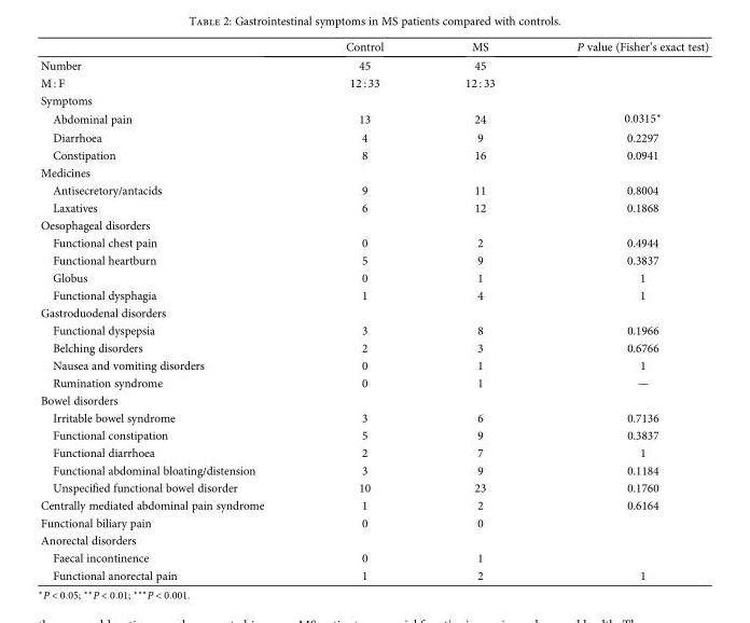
<table><thead><tr><td></td><td>Control</td><td>MS</td><td>P value (Fisher’s exact test)</td></tr></thead><tbody><tr><td>Number</td><td>45</td><td>45</td><td></td></tr><tr><td>M : F</td><td>12 : 33</td><td>12 : 33</td><td></td></tr><tr><td colspan="4">Symptoms</td></tr><tr><td>Abdominal pain</td><td>13</td><td>24</td><td>0.0315∗</td></tr><tr><td>Diarrhoea</td><td>4</td><td>9</td><td>0.2297</td></tr><tr><td>Constipation</td><td>8</td><td>16</td><td>0.0941</td></tr><tr><td colspan="4">Medicines</td></tr><tr><td>Antisecretory/antacids</td><td>9</td><td>11</td><td>0.8004</td></tr><tr><td>Laxatives</td><td>6</td><td>12</td><td>0.1868</td></tr><tr><td colspan="4">Oesophageal disorders</td></tr><tr><td>Functional chest pain</td><td>0</td><td>2</td><td>0.4944</td></tr><tr><td>Functional heartburn</td><td>5</td><td>9</td><td>0.3837</td></tr><tr><td>Globus</td><td>0</td><td>1</td><td>1</td></tr><tr><td>Functional dysphagia</td><td>1</td><td>4</td><td>1</td></tr><tr><td colspan="4">Gastroduodenal disorders</td></tr><tr><td>Functional dyspepsia</td><td>3</td><td>8</td><td>0.1966</td></tr><tr><td>Belching disorders</td><td>2</td><td>3</td><td>0.6766</td></tr><tr><td>Nausea and vomiting disorders</td><td>0</td><td>1</td><td>1</td></tr><tr><td>Rumination syndrome</td><td>0</td><td>1</td><td>—</td></tr><tr><td colspan="4">Bowel disorders</td></tr><tr><td>Irritable bowel syndrome</td><td>3</td><td>6</td><td>0.7136</td></tr><tr><td>Functional constipation</td><td>5</td><td>9</td><td>0.3837</td></tr><tr><td>Functional diarrhoea</td><td>2</td><td>7</td><td>1</td></tr><tr><td>Functional abdominal bloating/distension</td><td>3</td><td>9</td><td>0.1184</td></tr><tr><td>Unspecified functional bowel disorder</td><td>10</td><td>23</td><td>0.1760</td></tr><tr><td>Centrally mediated abdominal pain syndrome</td><td>1</td><td>2</td><td>0.6164</td></tr><tr><td>Functional biliary pain</td><td>0</td><td>0</td><td></td></tr><tr><td colspan="4">Anorectal disorders</td></tr><tr><td>Faecal incontinence</td><td>0</td><td>1</td><td></td></tr><tr><td>Functional anorectal pain</td><td>1</td><td>2</td><td>1</td></tr></tbody></table>